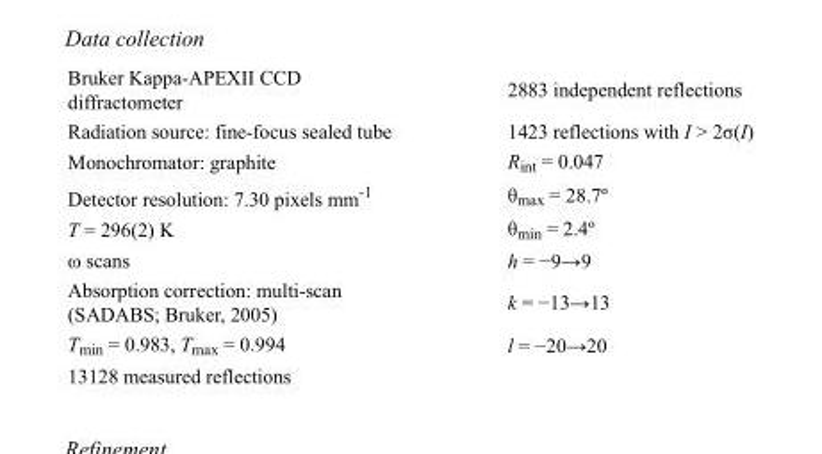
<table><tbody><tr><td>Bruker Kappa-APEXII CCD diffractometer</td><td>2883 independent reflections</td></tr><tr><td>Radiation source: fine-focus sealed tube</td><td>1423 reflections with I &gt; 2σ(I)</td></tr><tr><td>Monochromator: graphite</td><td>R<sub>int</sub> = 0.047</td></tr><tr><td>Detector resolution: 7.30 pixels mm<sup>-1</sup></td><td>θ<sub>max</sub> = 28.7º</td></tr><tr><td>T = 296(2) K</td><td>θ<sub>min</sub> = 2.4º</td></tr><tr><td>ω scans</td><td>h = −9→9</td></tr><tr><td>Absorption correction: multi-scan (SADABS; Bruker, 2005)</td><td>k = −13→13</td></tr><tr><td>T<sub>min</sub> = 0.983, T<sub>max</sub> = 0.994</td><td>l = −20→20</td></tr><tr><td>13128 measured reflections</td><td></td></tr></tbody></table>